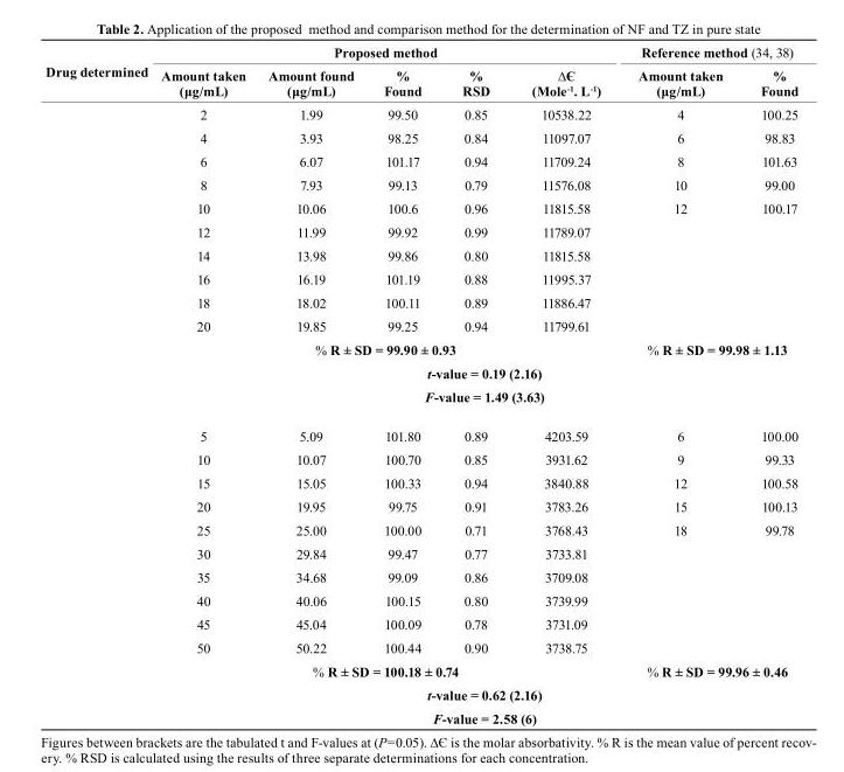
<table><thead><tr><td rowspan="2">Drug determined</td><td colspan="5">Proposed method</td><td colspan="2">reference method (34, 38)</td></tr><tr><td>Amount taken (μg/mL)</td><td>Amount found (μg/mL)</td><td>% Found</td><td>% RSD</td><td>∆Є (Mole-1. L-1)</td><td>Amount taken (μg/mL)</td><td>% Found</td></tr></thead><tbody><tr><td rowspan="13"></td><td>2</td><td>1.99</td><td>99.50</td><td>0.85</td><td>10538.22</td><td>4</td><td>100.25</td></tr><tr><td>4</td><td>3.93</td><td>98.25</td><td>0.84</td><td>11097.07</td><td>6</td><td>98.83</td></tr><tr><td>6</td><td>6.07</td><td>101.17</td><td>0.94</td><td>11709.24</td><td>8</td><td>101.63</td></tr><tr><td>8</td><td>7.93</td><td>99.13</td><td>0.79</td><td>11576.08</td><td>10</td><td>99.00</td></tr><tr><td>10</td><td>10.06</td><td>100.6</td><td>0.96</td><td>11815.58</td><td>12</td><td>100.17</td></tr><tr><td>12</td><td>11.99</td><td>99.92</td><td>0.99</td><td>11789.07</td><td></td><td></td></tr><tr><td>14</td><td>13.98</td><td>99.86</td><td>0.80</td><td>11815.58</td><td></td><td></td></tr><tr><td>16</td><td>16.19</td><td>101.19</td><td>0.88</td><td>11995.37</td><td></td><td></td></tr><tr><td>18</td><td>18.02</td><td>100.11</td><td>0.89</td><td>11886.47</td><td></td><td></td></tr><tr><td>20</td><td>19.85</td><td>99.25</td><td>0.94</td><td>11799.61</td><td></td><td></td></tr><tr><td colspan="5">% R ± SD = 99.90 ± 0.93</td><td colspan="2">% R ± SD = 99.98 ± 1.13</td></tr><tr><td colspan="7">t-value = 0.19 (2.16)</td></tr><tr><td colspan="7">F-value = 1.49 (3.63)</td></tr><tr><td rowspan="13"></td><td>5</td><td>5.09</td><td>101.80</td><td>0.89</td><td>4203.59</td><td>6</td><td>100.00</td></tr><tr><td>10</td><td>10.07</td><td>100.70</td><td>0.85</td><td>3931.62</td><td>9</td><td>99.33</td></tr><tr><td>15</td><td>15.05</td><td>100.33</td><td>0.94</td><td>3840.88</td><td>12</td><td>100.58</td></tr><tr><td>20</td><td>19.95</td><td>99.75</td><td>0.91</td><td>3783.26</td><td>15</td><td>100.13</td></tr><tr><td>25</td><td>25.00</td><td>100.00</td><td>0.71</td><td>3768.43</td><td>18</td><td>99.78</td></tr><tr><td>30</td><td>29.84</td><td>99.47</td><td>0.77</td><td>3733.81</td><td></td><td></td></tr><tr><td>35</td><td>34.68</td><td>99.09</td><td>0.86</td><td>3709.08</td><td></td><td></td></tr><tr><td>40</td><td>40.06</td><td>100.15</td><td>0.80</td><td>3739.99</td><td></td><td></td></tr><tr><td>45</td><td>45.04</td><td>100.09</td><td>0.78</td><td>3731.09</td><td></td><td></td></tr><tr><td>50</td><td>50.22</td><td>100.44</td><td>0.90</td><td>3738.75</td><td></td><td></td></tr><tr><td colspan="5">% R ± SD = 100.18 ± 0.74</td><td colspan="2">% R ± SD = 99.96 ± 0.46</td></tr><tr><td colspan="7">t-value = 0.62 (2.16)</td></tr><tr><td colspan="7">F-value = 2.58 (6)</td></tr></tbody></table>